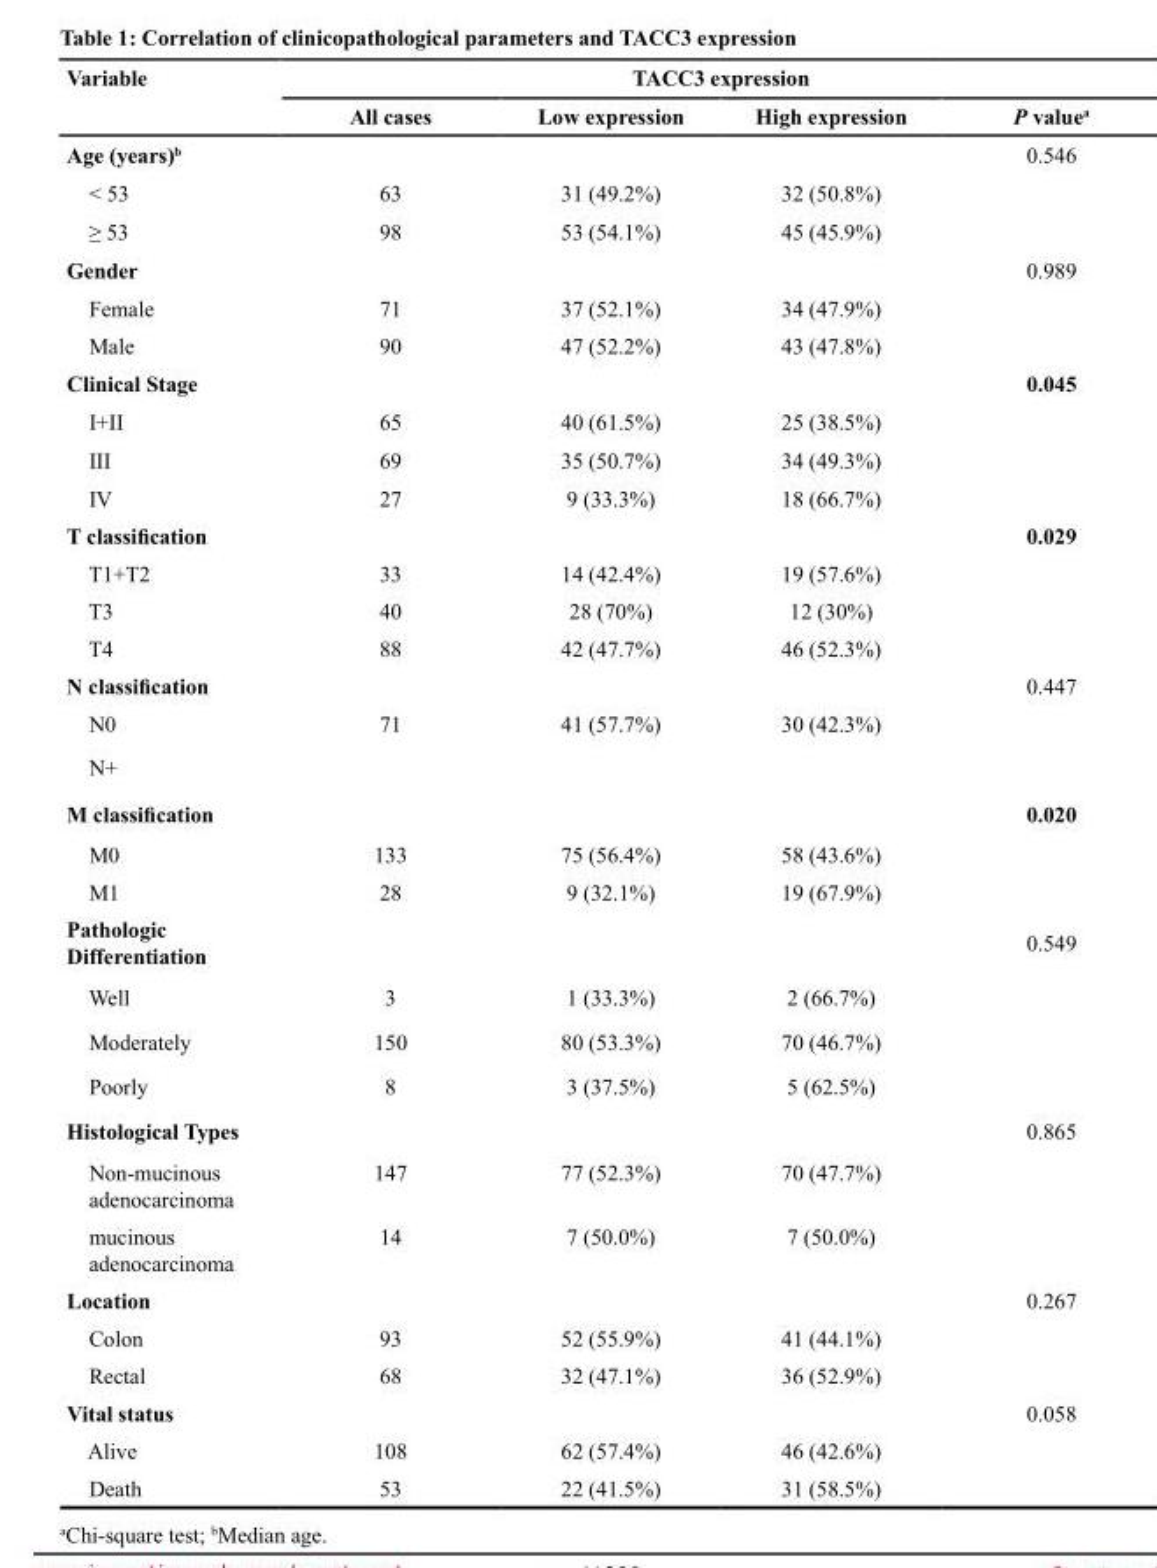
<table><thead><tr><td rowspan="2">Variable</td><td colspan="4">TACC3 expression</td></tr><tr><td>All cases</td><td>Low expression</td><td>High expression</td><td>P value<sup>a</sup></td></tr></thead><tbody><tr><td>Age (years)<sup>b</sup></td><td></td><td></td><td></td><td>0.546</td></tr><tr><td>&lt; 53</td><td>63</td><td>31 (49.2%)</td><td>32 (50.8%)</td><td></td></tr><tr><td>≥ 53</td><td>98</td><td>53 (54.1%)</td><td>45 (45.9%)</td><td></td></tr><tr><td>Gender</td><td></td><td></td><td></td><td>0.989</td></tr><tr><td>Female</td><td>71</td><td>37 (52.1%)</td><td>34 (47.9%)</td><td></td></tr><tr><td>Male</td><td>90</td><td>47 (52.2%)</td><td>43 (47.8%)</td><td></td></tr><tr><td>Clinical Stage</td><td></td><td></td><td></td><td>0.045</td></tr><tr><td>I+II</td><td>65</td><td>40 (61.5%)</td><td>25 (38.5%)</td><td></td></tr><tr><td>III</td><td>69</td><td>35 (50.7%)</td><td>34 (49.3%)</td><td></td></tr><tr><td>IV</td><td>27</td><td>9 (33.3%)</td><td>18 (66.7%)</td><td></td></tr><tr><td>T classification</td><td></td><td></td><td></td><td>0.029</td></tr><tr><td>T1+T2</td><td>33</td><td>14 (42.4%)</td><td>19 (57.6%)</td><td></td></tr><tr><td>T3</td><td>40</td><td>28 (70%)</td><td>12 (30%)</td><td></td></tr><tr><td>T4</td><td>88</td><td>42 (47.7%)</td><td>46 (52.3%)</td><td></td></tr><tr><td>N classification</td><td></td><td></td><td></td><td>0.447</td></tr><tr><td>N0</td><td>71</td><td>41 (57.7%)</td><td>30 (42.3%)</td><td></td></tr><tr><td colspan="5">N+</td></tr><tr><td>M classification</td><td></td><td></td><td></td><td>0.020</td></tr><tr><td>M0</td><td>133</td><td>75 (56.4%)</td><td>58 (43.6%)</td><td></td></tr><tr><td>M1</td><td>28</td><td>9 (32.1%)</td><td>19 (67.9%)</td><td></td></tr><tr><td>Pathologic Differentiation</td><td></td><td></td><td></td><td>0.549</td></tr><tr><td>Well</td><td>3</td><td>1 (33.3%)</td><td>2 (66.7%)</td><td></td></tr><tr><td>Moderately</td><td>150</td><td>80 (53.3%)</td><td>70 (46.7%)</td><td></td></tr><tr><td>Poorly</td><td>8</td><td>3 (37.5%)</td><td>5 (62.5%)</td><td></td></tr><tr><td>Histological Types</td><td></td><td></td><td></td><td>0.865</td></tr><tr><td>Non-mucinous adenocarcinoma</td><td>147</td><td>77 (52.3%)</td><td>70 (47.7%)</td><td></td></tr><tr><td>mucinous adenocarcinoma</td><td>14</td><td>7 (50.0%)</td><td>7 (50.0%)</td><td></td></tr><tr><td>Location</td><td></td><td></td><td></td><td>0.267</td></tr><tr><td>Colon</td><td>93</td><td>52 (55.9%)</td><td>41 (44.1%)</td><td></td></tr><tr><td>Rectal</td><td>68</td><td>32 (47.1%)</td><td>36 (52.9%)</td><td></td></tr><tr><td>Vital status</td><td></td><td></td><td></td><td>0.058</td></tr><tr><td>Alive</td><td>108</td><td>62 (57.4%)</td><td>46 (42.6%)</td><td></td></tr><tr><td>Death</td><td>53</td><td>22 (41.5%)</td><td>31 (58.5%)</td><td></td></tr></tbody></table>